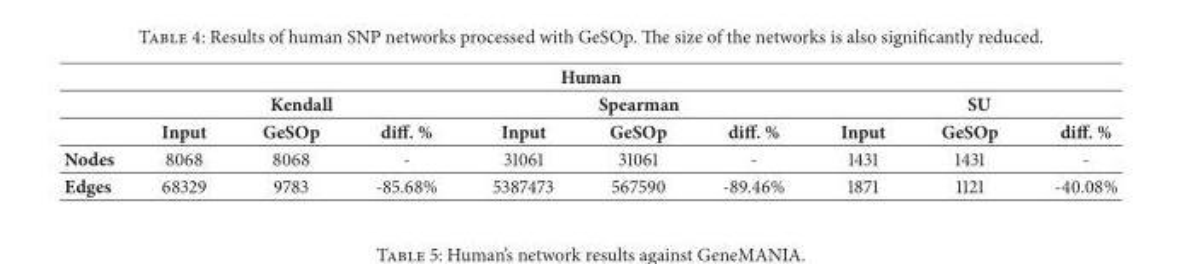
<table><thead><tr><td colspan="10">Human</td></tr><tr><td rowspan="2"></td><td colspan="3">Kendall</td><td colspan="3">Spearman</td><td colspan="3">SU</td></tr><tr><td>Input</td><td>GeSOp</td><td>diff. %</td><td>Input</td><td>GeSOp</td><td>diff. %</td><td>Input</td><td>GeSOp</td><td>diff. %</td></tr></thead><tbody><tr><td>Nodes</td><td>8068</td><td>8068</td><td>-</td><td>31061</td><td>31061</td><td>-</td><td>1431</td><td>1431</td><td>-</td></tr><tr><td>Edges</td><td>68329</td><td>9783</td><td>-85.68%</td><td>5387473</td><td>567590</td><td>-89.46%</td><td>1871</td><td>1121</td><td>-40.08%</td></tr></tbody></table>